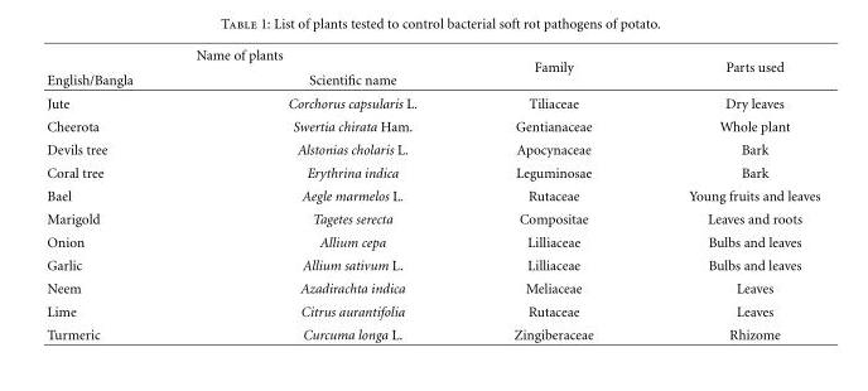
<table><thead><tr><td colspan="2">Name of plants</td><td rowspan="2">Family</td><td rowspan="2">Parts used</td></tr><tr><td>English/Bangla</td><td>Scientific name</td></tr></thead><tbody><tr><td>Jute</td><td>Corchorus capsularis L.</td><td>Tiliaceae</td><td>Dry leaves</td></tr><tr><td>Cheerota</td><td>Swertia chirata Ham.</td><td>Gentianaceae</td><td>Whole plant</td></tr><tr><td>Devils tree</td><td>Alstonias cholaris L.</td><td>Apocynaceae</td><td>Bark</td></tr><tr><td>Coral tree</td><td>Erythrina indica</td><td>Leguminosae</td><td>Bark</td></tr><tr><td>Bael</td><td>Aegle marmelos L.</td><td>Rutaceae</td><td>Young fruits and leaves</td></tr><tr><td>Marigold</td><td>Tagetes serecta</td><td>Compositae</td><td>Leaves and roots</td></tr><tr><td>Onion</td><td>Allium cepa</td><td>Lilliaceae</td><td>Bulbs and leaves</td></tr><tr><td>Garlic</td><td>Allium sativum L.</td><td>Lilliaceae</td><td>Bulbs and leaves</td></tr><tr><td>Neem</td><td>Azadirachta indica</td><td>Meliaceae</td><td>Leaves</td></tr><tr><td>Lime</td><td>Citrus aurantifolia</td><td>Rutaceae</td><td>Leaves</td></tr><tr><td>Turmeric</td><td>Curcuma longa L.</td><td>Zingiberaceae</td><td>Rhizome</td></tr></tbody></table>